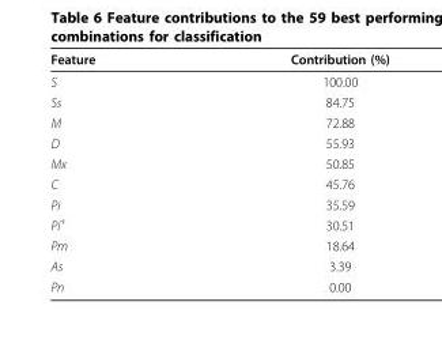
<table><thead><tr><td>Feature</td><td>Contribution (%)</td></tr></thead><tbody><tr><td>S</td><td>100.00</td></tr><tr><td>Ss</td><td>84.75</td></tr><tr><td>M</td><td>72.88</td></tr><tr><td>D</td><td>55.93</td></tr><tr><td>Mx</td><td>50.85</td></tr><tr><td>C</td><td>45.76</td></tr><tr><td>Pi</td><td>35.59</td></tr><tr><td>Pi<sup>+</sup></td><td>30.51</td></tr><tr><td>Pm</td><td>18.64</td></tr><tr><td>As</td><td>3.39</td></tr><tr><td>Pn</td><td>0.00</td></tr></tbody></table>